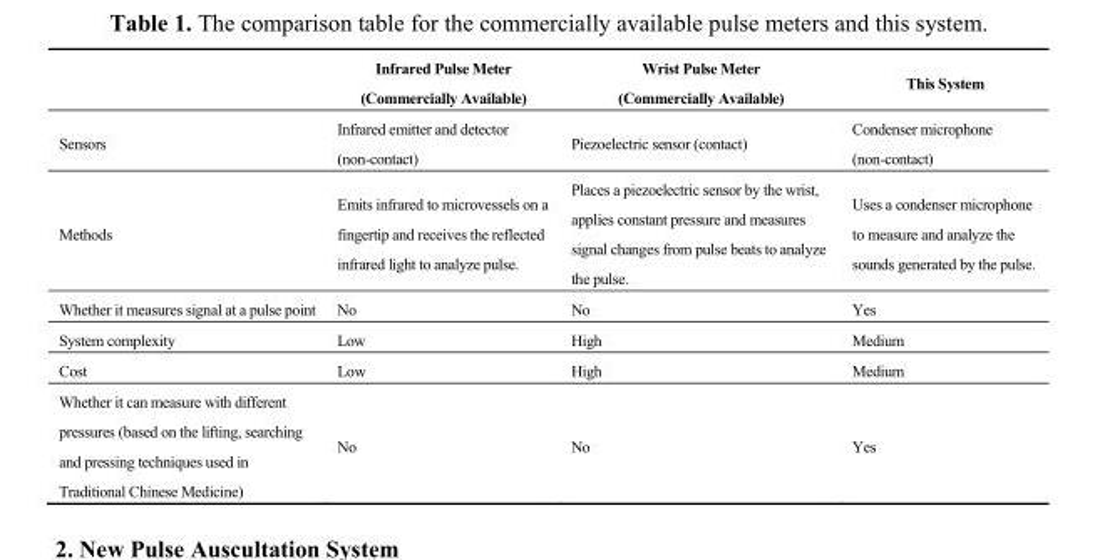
<table><thead><tr><td></td><td>Infrared Pulse Meter (Commercially Available)</td><td>Wrist Pulse Meter (Commercially Available)</td><td>This System</td></tr></thead><tbody><tr><td>Sensors</td><td>Infrared emitter and detector (non-contact)</td><td>Piezoelectric sensor (contact)</td><td>Condenser microphone (non-contact)</td></tr><tr><td>Methods</td><td>Emits infrared to microvessels on a fingertip and receives the reflected infrared light to analyze pulse.</td><td>Places a piezoelectric sensor by the wrist, applies constant pressure and measures signal changes from pulse beats to analyze the pulse.</td><td>Uses a condenser microphone to measure and analyze the sounds generated by the pulse.</td></tr><tr><td>Whether it measures signal at a pulse point</td><td>No</td><td>No</td><td>Yes</td></tr><tr><td>System complexity</td><td>Low</td><td>High</td><td>Medium</td></tr><tr><td>Cost</td><td>Low</td><td>High</td><td>Medium</td></tr><tr><td>Whether it can measure with different pressures (based on the lifting, searching and pressing techniques used in Traditional Chinese Medicine)</td><td>No</td><td>No</td><td>Yes</td></tr></tbody></table>